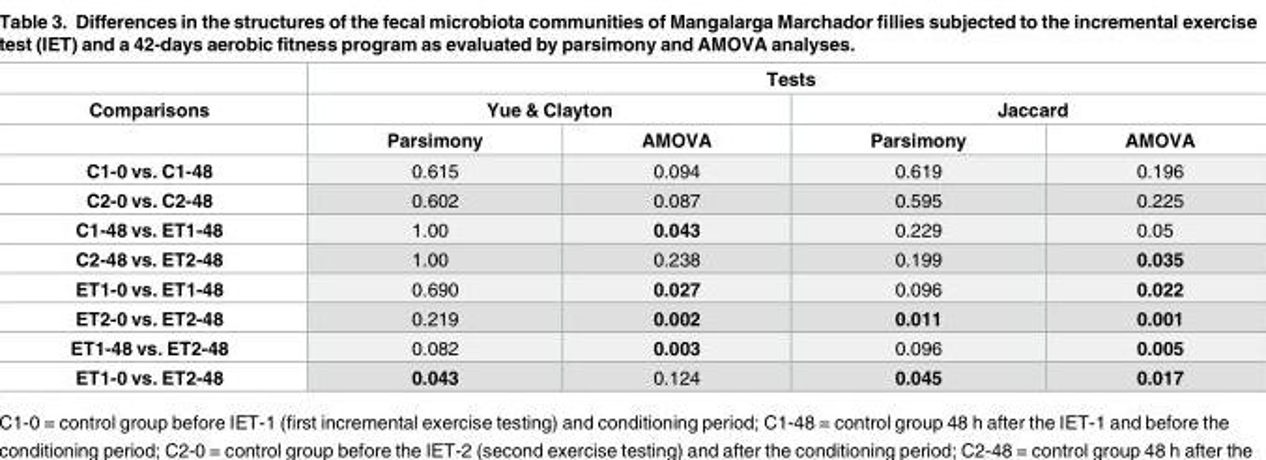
<table><thead><tr><td rowspan="3">Comparisons</td><td colspan="4">Tests</td></tr><tr><td colspan="2">Yue &amp; Clayton</td><td colspan="2">Jaccard</td></tr><tr><td>Parsimony</td><td>AMOVA</td><td>Parsimony</td><td>AMOVA</td></tr></thead><tbody><tr><td>C1-0 vs. C1-48</td><td>0.615</td><td>0.094</td><td>0.619</td><td>0.196</td></tr><tr><td>C2-0 vs. C2-48</td><td>0.602</td><td>0.087</td><td>0.595</td><td>0.225</td></tr><tr><td>C1-48 vs. ET1-48</td><td>1.00</td><td>0.043</td><td>0.229</td><td>0.05</td></tr><tr><td>C2-48 vs. ET2-48</td><td>1.00</td><td>0.238</td><td>0.199</td><td>0.035</td></tr><tr><td>ET1-0 vs. ET1-48</td><td>0.690</td><td>0.027</td><td>0.096</td><td>0.022</td></tr><tr><td>ET2-0 vs. ET2-48</td><td>0.219</td><td>0.002</td><td>0.011</td><td>0.001</td></tr><tr><td>ET1-48 vs. ET2-48</td><td>0.082</td><td>0.003</td><td>0.096</td><td>0.005</td></tr><tr><td>ET1-0 vs. ET2-48</td><td>0.043</td><td>0.124</td><td>0.045</td><td>0.017</td></tr></tbody></table>